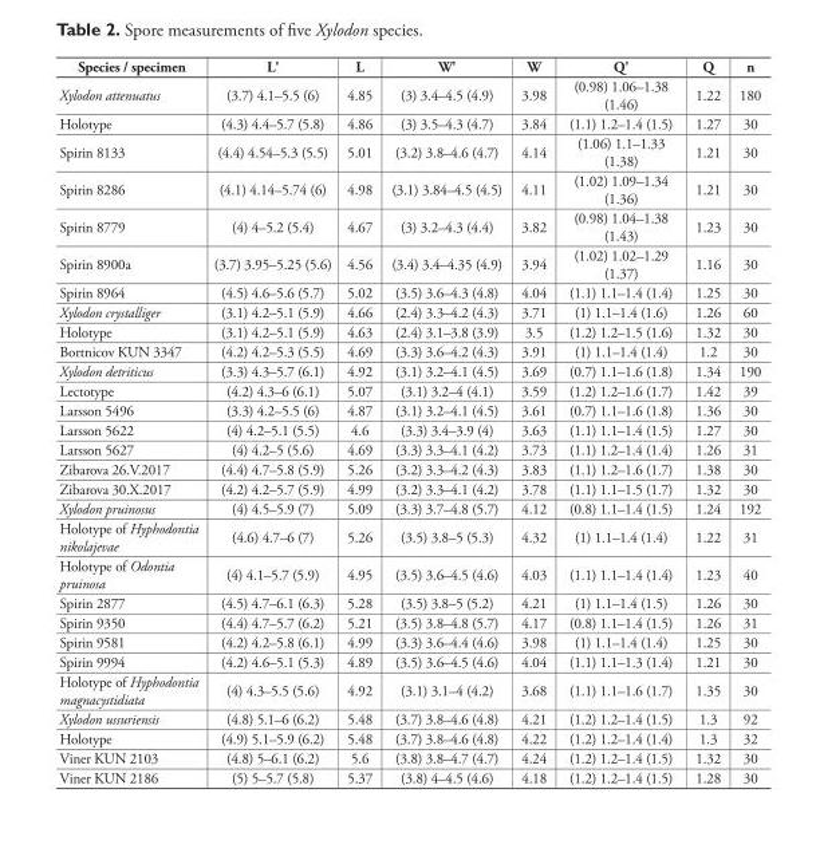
<table><thead><tr><td>Species / specimen</td><td>L&#x27;</td><td>L</td><td>W&#x27;</td><td>W</td><td>Q&#x27;</td><td>Q</td><td>n</td></tr></thead><tbody><tr><td>Xylodon attenuatus</td><td>(3.7) 4.1–5.5 (6)</td><td>4.85</td><td>(3) 3.4–4.5 (4.9)</td><td>3.98</td><td>(0.98) 1.06–1.38 (1.46)</td><td>1.22</td><td>180</td></tr><tr><td>Holotype</td><td>(4.3) 4.4–5.7 (5.8)</td><td>4.86</td><td>(3) 3.5–4.3 (4.7)</td><td>3.84</td><td>(1.1) 1.2–1.4 (1.5)</td><td>1.27</td><td>30</td></tr><tr><td>Spirin 8133</td><td>(4.4) 4.54–5.3 (5.5)</td><td>5.01</td><td>(3.2) 3.8–4.6 (4.7)</td><td>4.14</td><td>(1.06) 1.1–1.33 (1.38)</td><td>1.21</td><td>30</td></tr><tr><td>Spirin 8286</td><td>(4.1) 4.14–5.74 (6)</td><td>4.98</td><td>(3.1) 3.84–4.5 (4.5)</td><td>4.11</td><td>(1.02) 1.09–1.34 (1.36)</td><td>1.21</td><td>30</td></tr><tr><td>Spirin 8779</td><td>(4) 4–5.2 (5.4)</td><td>4.67</td><td>(3) 3.2–4.3 (4.4)</td><td>3.82</td><td>(0.98) 1.04–1.38 (1.43)</td><td>1.23</td><td>30</td></tr><tr><td>Spirin 8900a</td><td>(3.7) 3.95–5.25 (5.6)</td><td>4.56</td><td>(3.4) 3.4–4.35 (4.9)</td><td>3.94</td><td>(1.02) 1.02–1.29 (1.37)</td><td>1.16</td><td>30</td></tr><tr><td>Spirin 8964</td><td>(4.5) 4.6–5.6 (5.7)</td><td>5.02</td><td>(3.5) 3.6–4.3 (4.8)</td><td>4.04</td><td>(1.1) 1.1–1.4 (1.4)</td><td>1.25</td><td>30</td></tr><tr><td>Xylodon crystalliger</td><td>(3.1) 4.2–5.1 (5.9)</td><td>4.66</td><td>(2.4) 3.3–4.2 (4.3)</td><td>3.71</td><td>(1) 1.1–1.4 (1.6)</td><td>1.26</td><td>60</td></tr><tr><td>Holotype</td><td>(3.1) 4.2–5.1 (5.9)</td><td>4.63</td><td>(2.4) 3.1–3.8 (3.9)</td><td>3.5</td><td>(1.2) 1.2–1.5 (1.6)</td><td>1.32</td><td>30</td></tr><tr><td>Bortnicov KUN 3347</td><td>(4.2) 4.2–5.3 (5.5)</td><td>4.69</td><td>(3.3) 3.6–4.2 (4.3)</td><td>3.91</td><td>(1) 1.1–1.4 (1.4)</td><td>1.2</td><td>30</td></tr><tr><td>Xylodon detriticus</td><td>(3.3) 4.3–5.7 (6.1)</td><td>4.92</td><td>(3.1) 3.2–4.1 (4.5)</td><td>3.69</td><td>(0.7) 1.1–1.6 (1.8)</td><td>1.34</td><td>190</td></tr><tr><td>Lectotype</td><td>(4.2) 4.3–6 (6.1)</td><td>5.07</td><td>(3.1) 3.2–4 (4.1)</td><td>3.59</td><td>(1.2) 1.2–1.6 (1.7)</td><td>1.42</td><td>39</td></tr><tr><td>Larsson 5496</td><td>(3.3) 4.2–5.5 (6)</td><td>4.87</td><td>(3.1) 3.2–4.1 (4.5)</td><td>3.61</td><td>(0.7) 1.1–1.6 (1.8)</td><td>1.36</td><td>30</td></tr><tr><td>Larsson 5622</td><td>(4) 4.2–5.1 (5.5)</td><td>4.6</td><td>(3.3) 3.4–3.9 (4)</td><td>3.63</td><td>(1.1) 1.1–1.4 (1.5)</td><td>1.27</td><td>30</td></tr><tr><td>Larsson 5627</td><td>(4) 4.2–5 (5.6)</td><td>4.69</td><td>(3.3) 3.3–4.1 (4.2)</td><td>3.73</td><td>(1.1) 1.2–1.4 (1.4)</td><td>1.26</td><td>31</td></tr><tr><td>Zibarova 26.V.2017</td><td>(4.4) 4.7–5.8 (5.9)</td><td>5.26</td><td>(3.2) 3.3–4.2 (4.3)</td><td>3.83</td><td>(1.1) 1.2–1.6 (1.7)</td><td>1.38</td><td>30</td></tr><tr><td>Zibarova 30.X.2017</td><td>(4.2) 4.2–5.7 (5.9)</td><td>4.99</td><td>(3.2) 3.3–4.1 (4.2)</td><td>3.78</td><td>(1.1) 1.1–1.5 (1.7)</td><td>1.32</td><td>30</td></tr><tr><td>Xylodon pruinosus</td><td>(4) 4.5–5.9 (7)</td><td>5.09</td><td>(3.3) 3.7–4.8 (5.7)</td><td>4.12</td><td>(0.8) 1.1–1.4 (1.5)</td><td>1.24</td><td>192</td></tr><tr><td>Holotype of Hyphodontia nikolajevae</td><td>(4.6) 4.7–6 (7)</td><td>5.26</td><td>(3.5) 3.8–5 (5.3)</td><td>4.32</td><td>(1) 1.1–1.4 (1.4)</td><td>1.22</td><td>31</td></tr><tr><td>Holotype of Odontia pruinosa</td><td>(4) 4.1–5.7 (5.9)</td><td>4.95</td><td>(3.5) 3.6–4.5 (4.6)</td><td>4.03</td><td>(1.1) 1.1–1.4 (1.4)</td><td>1.23</td><td>40</td></tr><tr><td>Spirin 2877</td><td>(4.5) 4.7–6.1 (6.3)</td><td>5.28</td><td>(3.5) 3.8–5 (5.2)</td><td>4.21</td><td>(1) 1.1–1.4 (1.5)</td><td>1.26</td><td>30</td></tr><tr><td>Spirin 9350</td><td>(4.4) 4.7–5.7 (6.2)</td><td>5.21</td><td>(3.5) 3.8–4.8 (5.7)</td><td>4.17</td><td>(0.8) 1.1–1.4 (1.5)</td><td>1.26</td><td>31</td></tr><tr><td>Spirin 9581</td><td>(4.2) 4.2–5.8 (6.1)</td><td>4.99</td><td>(3.3) 3.6–4.4 (4.6)</td><td>3.98</td><td>(1) 1.1–1.4 (1.4)</td><td>1.25</td><td>30</td></tr><tr><td>Spirin 9994</td><td>(4.2) 4.6–5.1 (5.3)</td><td>4.89</td><td>(3.5) 3.6–4.5 (4.6)</td><td>4.04</td><td>(1.1) 1.1–1.3 (1.4)</td><td>1.21</td><td>30</td></tr><tr><td>Holotype of Hyphodontia magnacystidiata</td><td>(4) 4.3–5.5 (5.6)</td><td>4.92</td><td>(3.1) 3.1–4 (4.2)</td><td>3.68</td><td>(1.1) 1.1–1.6 (1.7)</td><td>1.35</td><td>30</td></tr><tr><td>Xylodon ussuriensis</td><td>(4.8) 5.1–6 (6.2)</td><td>5.48</td><td>(3.7) 3.8–4.6 (4.8)</td><td>4.21</td><td>(1.2) 1.2–1.4 (1.5)</td><td>1.3</td><td>92</td></tr><tr><td>Holotype</td><td>(4.9) 5.1–5.9 (6.2)</td><td>5.48</td><td>(3.7) 3.8–4.6 (4.8)</td><td>4.22</td><td>(1.2) 1.2–1.4 (1.4)</td><td>1.3</td><td>32</td></tr><tr><td>Viner KUN 2103</td><td>(4.8) 5–6.1 (6.2)</td><td>5.6</td><td>(3.8) 3.8–4.7 (4.7)</td><td>4.24</td><td>(1.2) 1.2–1.4 (1.5)</td><td>1.32</td><td>30</td></tr><tr><td>Viner KUN 2186</td><td>(5) 5–5.7 (5.8)</td><td>5.37</td><td>(3.8) 4–4.5 (4.6)</td><td>4.18</td><td>(1.2) 1.2–1.4 (1.5)</td><td>1.28</td><td>30</td></tr></tbody></table>